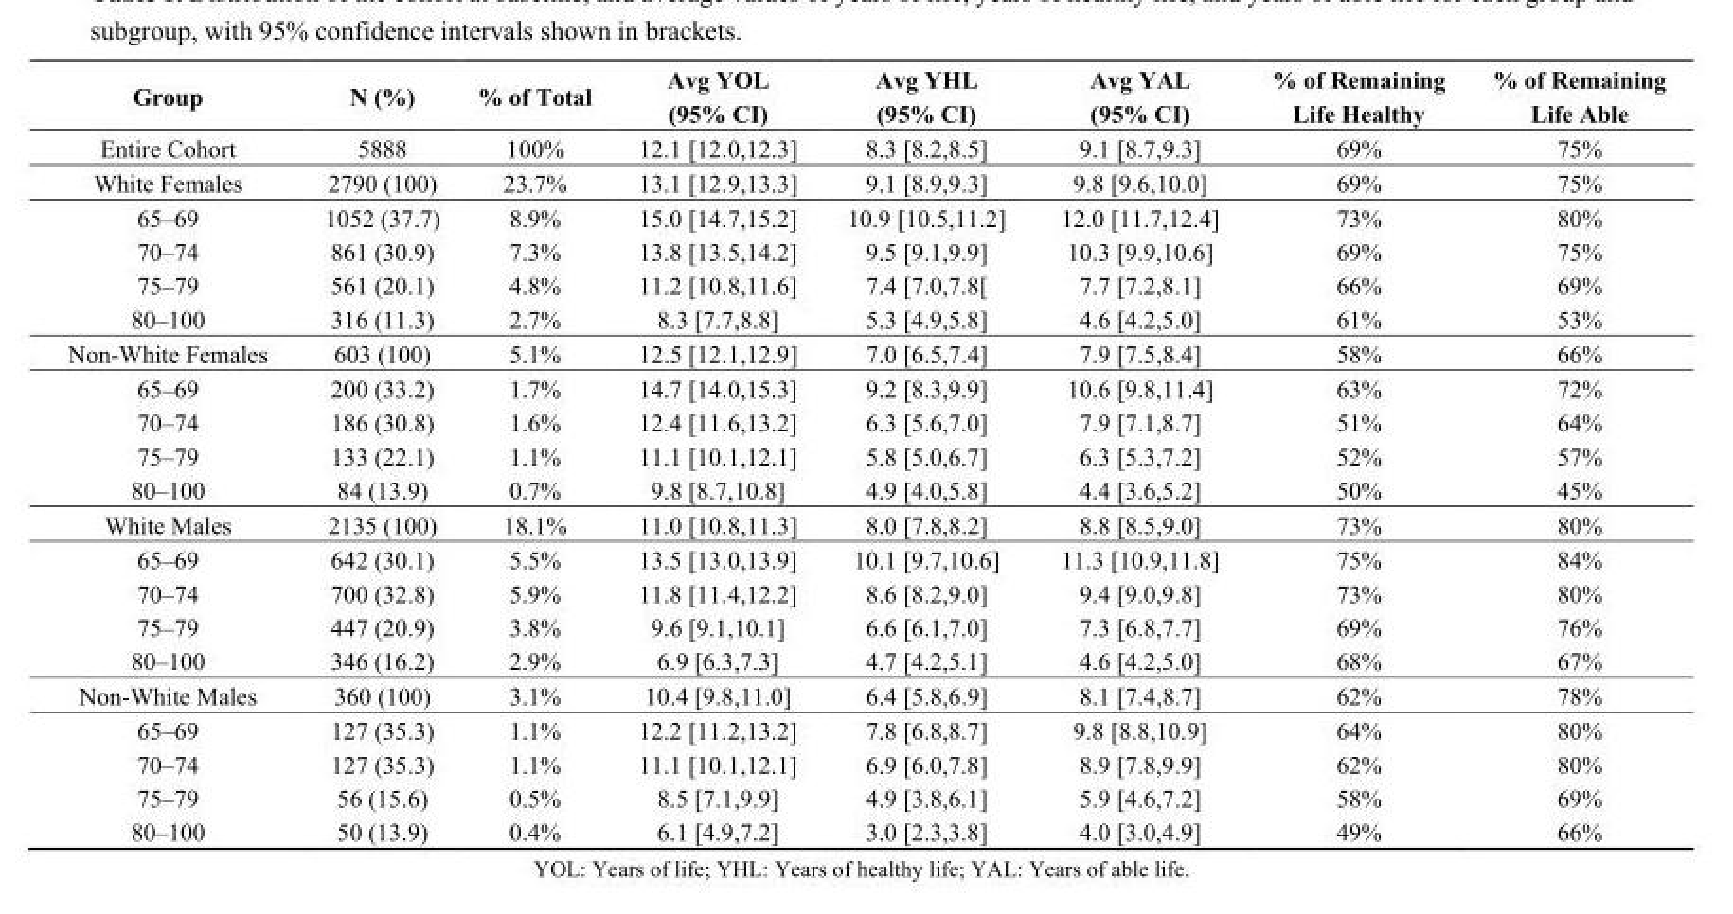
<table><thead><tr><td>Group</td><td>N (%)</td><td>% of Total</td><td>Avg YOL (95% CI)</td><td>Avg YHL (95% CI)</td><td>Avg YAL (95% CI)</td><td>% of Remaining Life Healthy</td><td>% of Remaining Life Able</td></tr></thead><tbody><tr><td>Entire Cohort</td><td>5888</td><td>100%</td><td>12.1 [12.0,12.3]</td><td>8.3 [8.2,8.5]</td><td>9.1 [8.7,9.3]</td><td>69%</td><td>75%</td></tr><tr><td>White Females</td><td>2790 (100)</td><td>23.7%</td><td>13.1 [12.9,13.3]</td><td>9.1 [8.9,9.3]</td><td>9.8 [9.6,10.0]</td><td>69%</td><td>75%</td></tr><tr><td>65–69</td><td>1052 (37.7)</td><td>8.9%</td><td>15.0 [14.7,15.2]</td><td>10.9 [10.5,11.2]</td><td>12.0 [11.7,12.4]</td><td>73%</td><td>80%</td></tr><tr><td>70–74</td><td>861 (30.9)</td><td>7.3%</td><td>13.8 [13.5,14.2]</td><td>9.5 [9.1,9.9]</td><td>10.3 [9.9,10.6]</td><td>69%</td><td>75%</td></tr><tr><td>75–79</td><td>561 (20.1)</td><td>4.8%</td><td>11.2 [10.8,11.6]</td><td>7.4 [7.0,7.8[</td><td>7.7 [7.2,8.1]</td><td>66%</td><td>69%</td></tr><tr><td>80–100</td><td>316 (11.3)</td><td>2.7%</td><td>8.3 [7.7,8.8]</td><td>5.3 [4.9,5.8]</td><td>4.6 [4.2,5.0]</td><td>61%</td><td>53%</td></tr><tr><td>Non-White Females</td><td>603 (100)</td><td>5.1%</td><td>12.5 [12.1,12.9]</td><td>7.0 [6.5,7.4]</td><td>7.9 [7.5,8.4]</td><td>58%</td><td>66%</td></tr><tr><td>65–69</td><td>200 (33.2)</td><td>1.7%</td><td>14.7 [14.0,15.3]</td><td>9.2 [8.3,9.9]</td><td>10.6 [9.8,11.4]</td><td>63%</td><td>72%</td></tr><tr><td>70–74</td><td>186 (30.8)</td><td>1.6%</td><td>12.4 [11.6,13.2]</td><td>6.3 [5.6,7.0]</td><td>7.9 [7.1,8.7]</td><td>51%</td><td>64%</td></tr><tr><td>75–79</td><td>133 (22.1)</td><td>1.1%</td><td>11.1 [10.1,12.1]</td><td>5.8 [5.0,6.7]</td><td>6.3 [5.3,7.2]</td><td>52%</td><td>57%</td></tr><tr><td>80–100</td><td>84 (13.9)</td><td>0.7%</td><td>9.8 [8.7,10.8]</td><td>4.9 [4.0,5.8]</td><td>4.4 [3.6,5.2]</td><td>50%</td><td>45%</td></tr><tr><td>White Males</td><td>2135 (100)</td><td>18.1%</td><td>11.0 [10.8,11.3]</td><td>8.0 [7.8,8.2]</td><td>8.8 [8.5,9.0]</td><td>73%</td><td>80%</td></tr><tr><td>65–69</td><td>642 (30.1)</td><td>5.5%</td><td>13.5 [13.0,13.9]</td><td>10.1 [9.7,10.6]</td><td>11.3 [10.9,11.8]</td><td>75%</td><td>84%</td></tr><tr><td>70–74</td><td>700 (32.8)</td><td>5.9%</td><td>11.8 [11.4,12.2]</td><td>8.6 [8.2,9.0]</td><td>9.4 [9.0,9.8]</td><td>73%</td><td>80%</td></tr><tr><td>75–79</td><td>447 (20.9)</td><td>3.8%</td><td>9.6 [9.1,10.1]</td><td>6.6 [6.1,7.0]</td><td>7.3 [6.8,7.7]</td><td>69%</td><td>76%</td></tr><tr><td>80–100</td><td>346 (16.2)</td><td>2.9%</td><td>6.9 [6.3,7.3]</td><td>4.7 [4.2,5.1]</td><td>4.6 [4.2,5.0]</td><td>68%</td><td>67%</td></tr><tr><td>Non-White Males</td><td>360 (100)</td><td>3.1%</td><td>10.4 [9.8,11.0]</td><td>6.4 [5.8,6.9]</td><td>8.1 [7.4,8.7]</td><td>62%</td><td>78%</td></tr><tr><td>65–69</td><td>127 (35.3)</td><td>1.1%</td><td>12.2 [11.2,13.2]</td><td>7.8 [6.8,8.7]</td><td>9.8 [8.8,10.9]</td><td>64%</td><td>80%</td></tr><tr><td>70–74</td><td>127 (35.3)</td><td>1.1%</td><td>11.1 [10.1,12.1]</td><td>6.9 [6.0,7.8]</td><td>8.9 [7.8,9.9]</td><td>62%</td><td>80%</td></tr><tr><td>75–79</td><td>56 (15.6)</td><td>0.5%</td><td>8.5 [7.1,9.9]</td><td>4.9 [3.8,6.1]</td><td>5.9 [4.6,7.2]</td><td>58%</td><td>69%</td></tr><tr><td>80–100</td><td>50 (13.9)</td><td>0.4%</td><td>6.1 [4.9,7.2]</td><td>3.0 [2.3,3.8]</td><td>4.0 [3.0,4.9]</td><td>49%</td><td>66%</td></tr></tbody></table>